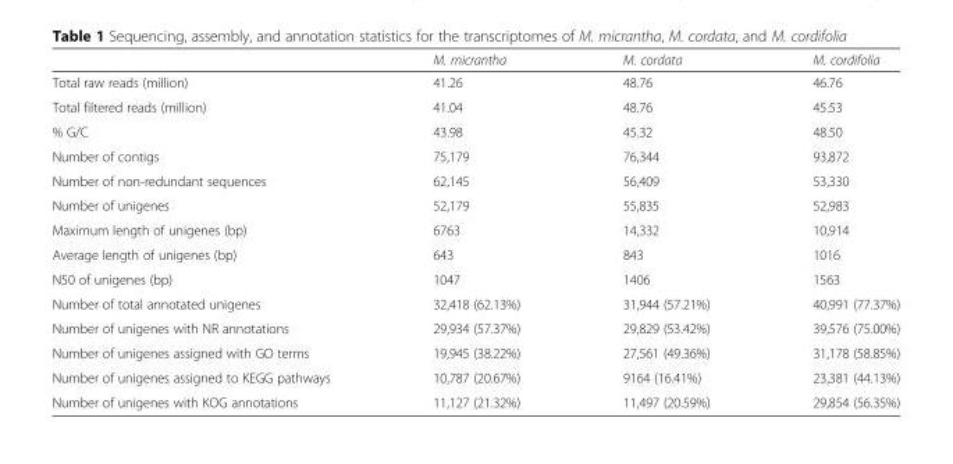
<table><thead><tr><td></td><td>M. micrantha</td><td>M. cordata</td><td>M. cordifolia</td></tr></thead><tbody><tr><td>Total raw reads (million)</td><td>41.26</td><td>48.76</td><td>46.76</td></tr><tr><td>Total filtered reads (million)</td><td>41.04</td><td>48.76</td><td>45.53</td></tr><tr><td>% G/C</td><td>43.98</td><td>45.32</td><td>48.50</td></tr><tr><td>Number of contigs</td><td>75,179</td><td>76,344</td><td>93,872</td></tr><tr><td>Number of non-redundant sequences</td><td>62,145</td><td>56,409</td><td>53,330</td></tr><tr><td>Number of unigenes</td><td>52,179</td><td>55,835</td><td>52,983</td></tr><tr><td>Maximum length of unigenes (bp)</td><td>6763</td><td>14,332</td><td>10,914</td></tr><tr><td>Average length of unigenes (bp)</td><td>643</td><td>843</td><td>1016</td></tr><tr><td>N50 of unigenes (bp)</td><td>1047</td><td>1406</td><td>1563</td></tr><tr><td>Number of total annotated unigenes</td><td>32,418 (62.13%)</td><td>31,944 (57.21%)</td><td>40,991 (77.37%)</td></tr><tr><td>Number of unigenes with NR annotations</td><td>29,934 (57.37%)</td><td>29,829 (53.42%)</td><td>39,576 (75.00%)</td></tr><tr><td>Number of unigenes assigned with GO terms</td><td>19,945 (38.22%)</td><td>27,561 (49.36%)</td><td>31,178 (58.85%)</td></tr><tr><td>Number of unigenes assigned to KEGG pathways</td><td>10,787 (20.67%)</td><td>9164 (16.41%)</td><td>23,381 (44.13%)</td></tr><tr><td>Number of unigenes with KOG annotations</td><td>11,127 (21.32%)</td><td>11,497 (20.59%)</td><td>29,854 (56.35%)</td></tr></tbody></table>